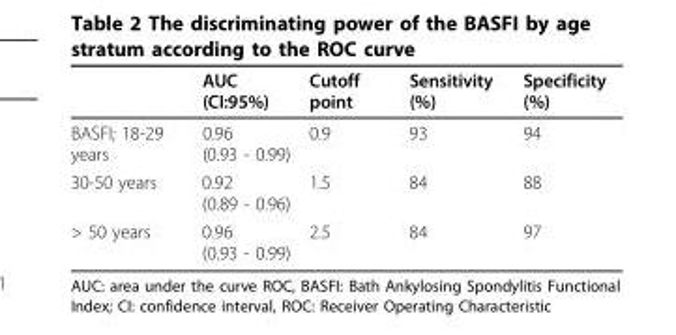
<table><thead><tr><td></td><td>AUC (CI:95%)</td><td>Cutoff point</td><td>Sensitivity (%)</td><td>Specificity (%)</td></tr></thead><tbody><tr><td>BASFI; 18-29 years</td><td>0.96 (0.93 - 0.99)</td><td>0.9</td><td>93</td><td>94</td></tr><tr><td>30-50 years</td><td>0.92 (0.89 - 0.96)</td><td>1.5</td><td>84</td><td>88</td></tr><tr><td>&gt; 50 years</td><td>0.96 (0.93 - 0.99)</td><td>2.5</td><td>84</td><td>97</td></tr></tbody></table>